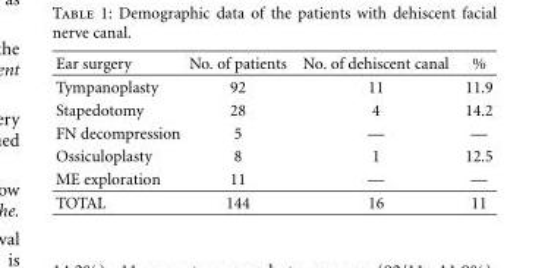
<table><thead><tr><td>Ear surgery</td><td>No. of patients</td><td>No. of dehiscent canal</td><td>%</td></tr></thead><tbody><tr><td>Tympanoplasty</td><td>92</td><td>11</td><td>11.9</td></tr><tr><td>Stapedotomy</td><td>28</td><td>4</td><td>14.2</td></tr><tr><td>FN decompression</td><td>5</td><td>—</td><td>—</td></tr><tr><td>Ossiculoplasty</td><td>8</td><td>1</td><td>12.5</td></tr><tr><td>ME exploration</td><td>11</td><td>—</td><td>—</td></tr><tr><td>TOTAL</td><td>144</td><td>16</td><td>11</td></tr></tbody></table>